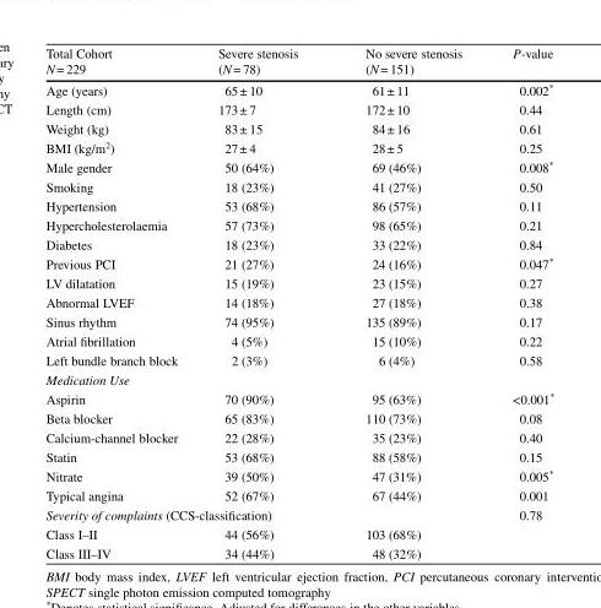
<table><thead><tr><td>Total Cohort N= 229</td><td>Severe stenosis (N= 78)</td><td>No severe stenosis (N= 151)</td><td>P-value</td></tr></thead><tbody><tr><td>Age (years)</td><td>65± 10</td><td>61± 11</td><td>0.002*</td></tr><tr><td>Length (cm)</td><td>173± 7</td><td>172± 10</td><td>0.44</td></tr><tr><td>Weight (kg)</td><td>83± 15</td><td>84± 16</td><td>0.61</td></tr><tr><td>BMI (kg/m<sup>2</sup>)</td><td>27± 4</td><td>28± 5</td><td>0.25</td></tr><tr><td>Male gender</td><td>50 (64%)</td><td>69 (46%)</td><td>0.008*</td></tr><tr><td>Smoking</td><td>18 (23%)</td><td>41 (27%)</td><td>0.50</td></tr><tr><td>Hypertension</td><td>53 (68%)</td><td>86 (57%)</td><td>0.11</td></tr><tr><td>Hypercholesterolaemia</td><td>57 (73%)</td><td>98 (65%)</td><td>0.21</td></tr><tr><td>Diabetes</td><td>18 (23%)</td><td>33 (22%)</td><td>0.84</td></tr><tr><td>Previous PCI</td><td>21 (27%)</td><td>24 (16%)</td><td>0.047*</td></tr><tr><td>LV dilatation</td><td>15 (19%)</td><td>23 (15%)</td><td>0.27</td></tr><tr><td>Abnormal LVEF</td><td>14 (18%)</td><td>27 (18%)</td><td>0.38</td></tr><tr><td>Sinus rhythm</td><td>74 (95%)</td><td>135 (89%)</td><td>0.17</td></tr><tr><td>Atrial fibrillation</td><td>4 (5%)</td><td>15 (10%)</td><td>0.22</td></tr><tr><td>Left bundle branch block</td><td>2 (3%)</td><td>6 (4%)</td><td>0.58</td></tr><tr><td colspan="4">Medication Use</td></tr><tr><td>Aspirin</td><td>70 (90%)</td><td>95 (63%)</td><td>&lt;0.001*</td></tr><tr><td>Beta blocker</td><td>65 (83%)</td><td>110 (73%)</td><td>0.08</td></tr><tr><td>Calcium-channel blocker</td><td>22 (28%)</td><td>35 (23%)</td><td>0.40</td></tr><tr><td>Statin</td><td>53 (68%)</td><td>88 (58%)</td><td>0.15</td></tr><tr><td>Nitrate</td><td>39 (50%)</td><td>47 (31%)</td><td>0.005*</td></tr><tr><td>Typical angina</td><td>52 (67%)</td><td>67 (44%)</td><td>0.001</td></tr><tr><td colspan="3">Severity of complaints (CCS-classification)</td><td>0.78</td></tr><tr><td>Class I–II</td><td>44 (56%)</td><td>103 (68%)</td><td></td></tr><tr><td>Class III–IV</td><td>34 (44%)</td><td>48 (32%)</td><td></td></tr></tbody></table>